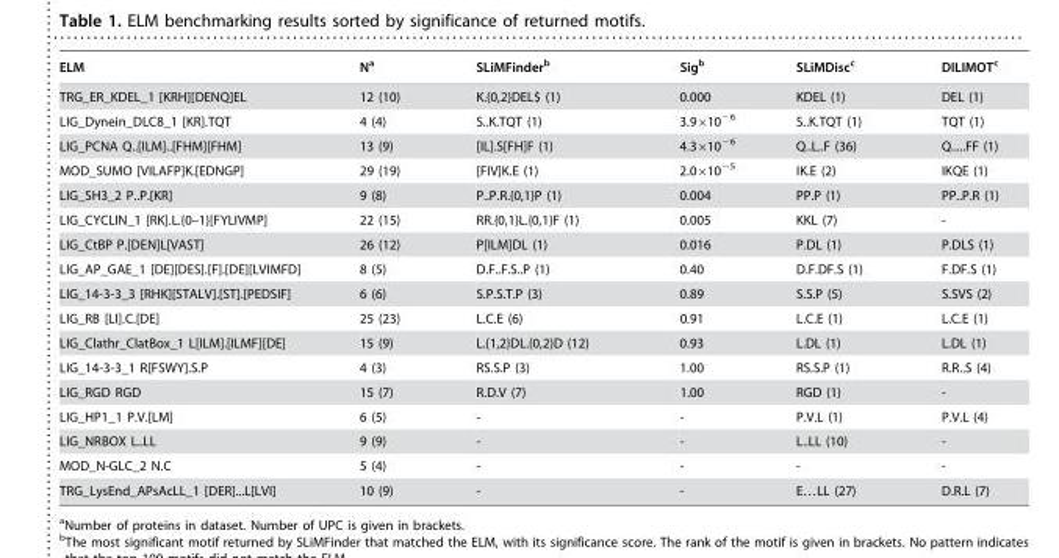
<table><thead><tr><td>ELM</td><td>N<sup>a</sup></td><td>SLiMFinder<sup>b</sup></td><td>Sig<sup>b</sup></td><td>SLiMDisc<sup>c</sup></td><td>DILIMOT<sup>c</sup></td></tr></thead><tbody><tr><td>TRG_ER_KDEL_1 [KRH][DENQ]EL</td><td>12 (10)</td><td>K.{0,2}DEL$ (1)</td><td>0.000</td><td>KDEL (1)</td><td>DEL (1)</td></tr><tr><td>LIG_Dynein_DLC8_1 [KR].TQT</td><td>4 (4)</td><td>S..K.TQT (1)</td><td>3.9×10<sup>−6</sup></td><td>S..K.TQT (1)</td><td>TQT (1)</td></tr><tr><td>LIG_PCNA Q..[ILM]..[FHM][FHM]</td><td>13 (9)</td><td>[IL].S[FH]F (1)</td><td>4.3×10<sup>−6</sup></td><td>Q..L..F (36)</td><td>Q.....FF (1)</td></tr><tr><td>MOD_SUMO [VILAFP]K.[EDNGP]</td><td>29 (19)</td><td>[FIV]K.E (1)</td><td>2.0×10<sup>−5</sup></td><td>IK.E (2)</td><td>IKQE (1)</td></tr><tr><td>LIG_SH3_2 P..P.[KR]</td><td>9 (8)</td><td>P..P.R.{0,1}P (1)</td><td>0.004</td><td>PP.P (1)</td><td>PP..P.R (1)</td></tr><tr><td>LIG_CYCLIN_1 [RK].L.{0–1}[FYLIVMP]</td><td>22 (15)</td><td>RR.{0,1}L.{0,1}F (1)</td><td>0.005</td><td>KKL (7)</td><td>-</td></tr><tr><td>LIG_CtBP P.[DEN]L[VAST]</td><td>26 (12)</td><td>P[ILM]DL (1)</td><td>0.016</td><td>P.DL (1)</td><td>P.DLS (1)</td></tr><tr><td>LIG_AP_GAE_1 [DE][DES].[F].[DE][LVIMFD]</td><td>8 (5)</td><td>D.F..F.S..P (1)</td><td>0.40</td><td>D.F.DF.S (1)</td><td>F.DF.S (1)</td></tr><tr><td>LIG_14-3-3_3 [RHK][STALV].[ST].[PEDSIF]</td><td>6 (6)</td><td>S.P.S.T.P (3)</td><td>0.89</td><td>S.S.P (5)</td><td>S.SVS (2)</td></tr><tr><td>LIG_RB [LI].C.[DE]</td><td>25 (23)</td><td>L.C.E (6)</td><td>0.91</td><td>L.C.E (1)</td><td>L.C.E (1)</td></tr><tr><td>LIG_Clathr_ClatBox_1 L[ILM].[ILMF][DE]</td><td>15 (9)</td><td>L.{1,2}DL.{0,2}D (12)</td><td>0.93</td><td>L.DL (1)</td><td>L.DL (1)</td></tr><tr><td>LIG_14-3-3_1 R[FSWY].S.P</td><td>4 (3)</td><td>RS.S.P (3)</td><td>1.00</td><td>RS.S.P (1)</td><td>R.R..S (4)</td></tr><tr><td>LIG_RGD RGD</td><td>15 (7)</td><td>R.D.V (7)</td><td>1.00</td><td>RGD (1)</td><td>-</td></tr><tr><td>LIG_HP1_1 P.V.[LM]</td><td>6 (5)</td><td>-</td><td>-</td><td>P.V.L (1)</td><td>P.V.L (4)</td></tr><tr><td>LIG_NRBOX L..LL</td><td>9 (9)</td><td>-</td><td>-</td><td>L..LL (10)</td><td>-</td></tr><tr><td>MOD_N-GLC_2 N.C</td><td>5 (4)</td><td>-</td><td>-</td><td>-</td><td>-</td></tr><tr><td>TRG_LysEnd_APsAcLL_1 [DER]...L[LVI]</td><td>10 (9)</td><td>-</td><td>-</td><td>E…LL (27)</td><td>D.R.L (7)</td></tr></tbody></table>